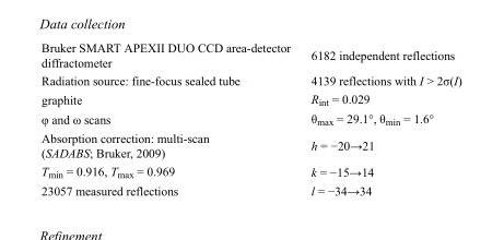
<table><tbody><tr><td>Bruker SMART APEXII DUO CCD area-detector diffractometer</td><td>6182 independent reflections</td></tr><tr><td>Radiation source: fine-focus sealed tube</td><td>4139 reflections with I &gt; 2σ(I)</td></tr><tr><td>graphite</td><td>R<sub>int</sub> = 0.029</td></tr><tr><td>φ and ω scans</td><td>θ<sub>max</sub> = 29.1°, θ<sub>min</sub> = 1.6°</td></tr><tr><td>Absorption correction: multi-scan (SADABS; Bruker, 2009)</td><td>h = −20→21</td></tr><tr><td>T<sub>min</sub> = 0.916, T<sub>max</sub> = 0.969</td><td>k = −15→14</td></tr><tr><td>23057 measured reflections</td><td>l = −34→34</td></tr></tbody></table>